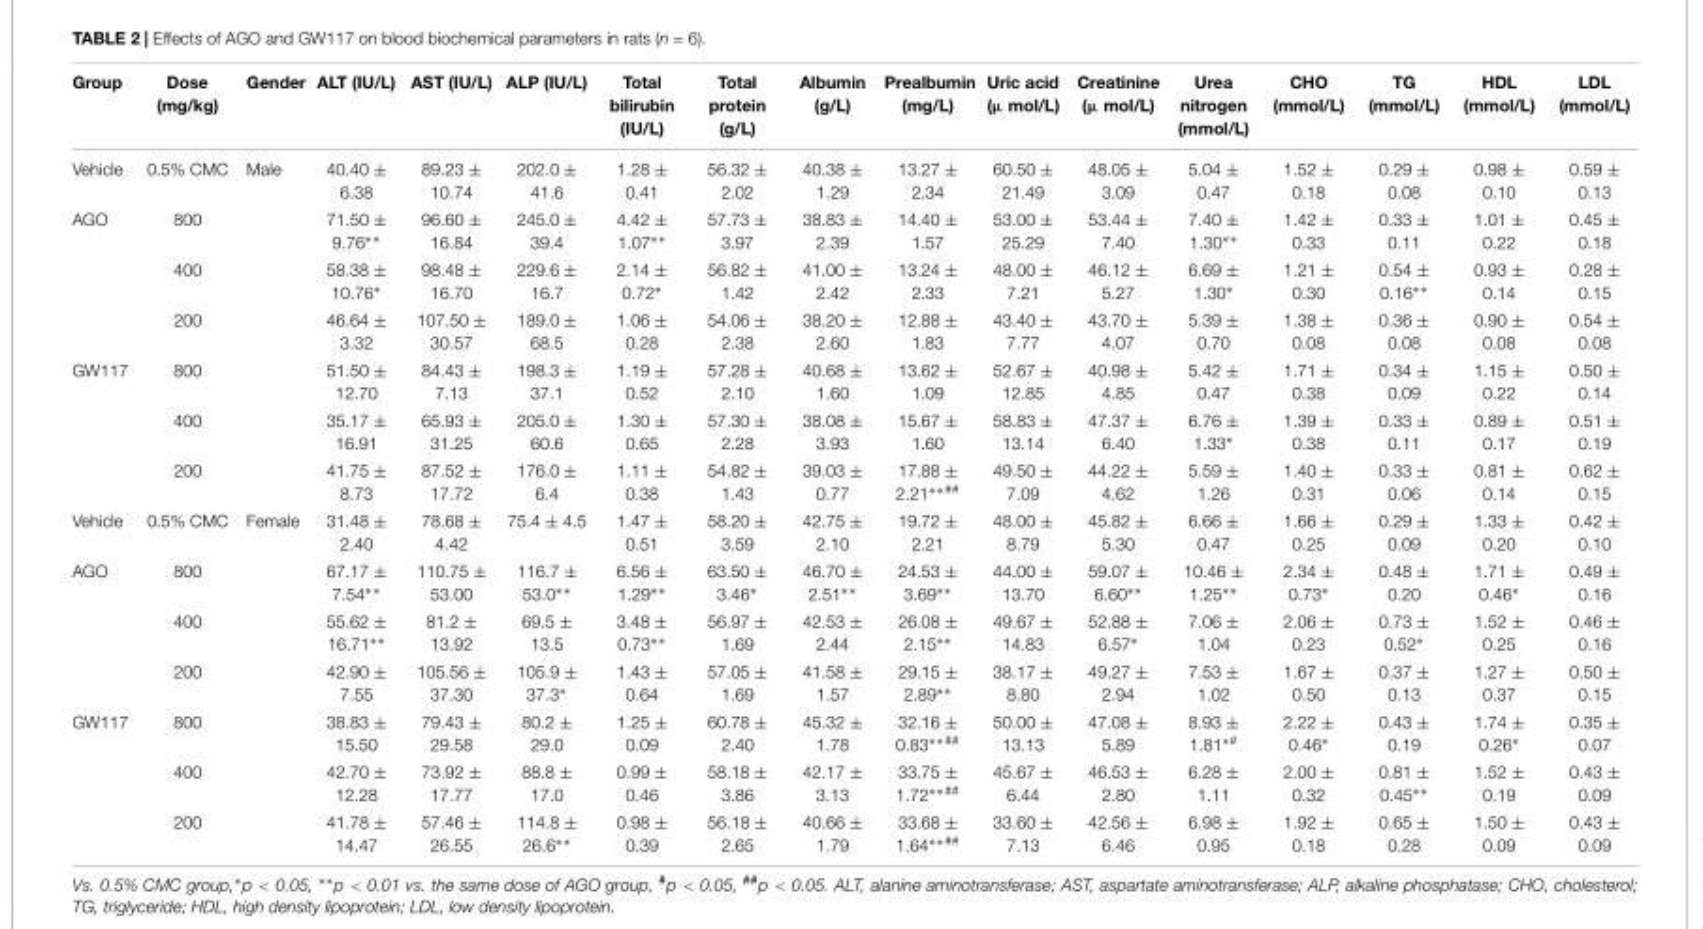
<table><thead><tr><td>Group</td><td>Dose (mg/kg)</td><td>Gender</td><td>ALT (IU/L)</td><td>AST (IU/L)</td><td>ALP (IU/L)</td><td>Total bilirubin (IU/L)</td><td>Total protein (g/L)</td><td>Albumin (g/L)</td><td>Prealbumin (mg/L)</td><td>Uric acid (µ mol/L)</td><td>Creatinine (µ mol/L)</td><td>Urea nitrogen (mmol/L)</td><td>CHO (mmol/L)</td><td>TG (mmol/L)</td><td>HDL (mmol/L)</td><td>LDL (mmol/L)</td></tr></thead><tbody><tr><td>Vehicle</td><td>0.5% CMC</td><td>Male</td><td>40.40 ± 6.38</td><td>89.23 ± 10.74</td><td>202.0 ± 41.6</td><td>1.28 ± 0.41</td><td>56.32 ± 2.02</td><td>40.38 ± 1.29</td><td>13.27 ± 2.34</td><td>60.50 ± 21.49</td><td>48.05 ± 3.09</td><td>5.04 ± 0.47</td><td>1.52 ± 0.18</td><td>0.29 ± 0.08</td><td>0.98 ± 0.10</td><td>0.59 ± 0.13</td></tr><tr><td rowspan="3">AGO</td><td>800</td><td></td><td>71.50 ± 9.76∗∗</td><td>96.60 ± 16.84</td><td>245.0 ± 39.4</td><td>4.42 ± 1.07∗∗</td><td>57.73 ± 3.97</td><td>38.83 ± 2.39</td><td>14.40 ± 1.57</td><td>53.00 ± 25.29</td><td>53.44 ± 7.40</td><td>7.40 ± 1.30∗∗</td><td>1.42 ± 0.33</td><td>0.33 ± 0.11</td><td>1.01 ± 0.22</td><td>0.45 ± 0.18</td></tr><tr><td>400</td><td></td><td>58.38 ± 10.76∗</td><td>98.48 ± 16.70</td><td>229.6 ± 16.7</td><td>2.14 ± 0.72∗</td><td>56.82 ± 1.42</td><td>41.00 ± 2.42</td><td>13.24 ± 2.33</td><td>48.00 ± 7.21</td><td>46.12 ± 5.27</td><td>6.69 ± 1.30∗</td><td>1.21 ± 0.30</td><td>0.54 ± 0.16∗∗</td><td>0.93 ± 0.14</td><td>0.28 ± 0.15</td></tr><tr><td>200</td><td></td><td>46.64 ± 3.32</td><td>107.50 ± 30.57</td><td>189.0 ± 68.5</td><td>1.06 ± 0.28</td><td>54.06 ± 2.38</td><td>38.20 ± 2.60</td><td>12.88 ± 1.83</td><td>43.40 ± 7.77</td><td>43.70 ± 4.07</td><td>5.39 ± 0.70</td><td>1.38 ± 0.08</td><td>0.36 ± 0.08</td><td>0.90 ± 0.08</td><td>0.54 ± 0.08</td></tr><tr><td rowspan="3">GW117</td><td>800</td><td></td><td>51.50 ± 12.70</td><td>84.43 ± 7.13</td><td>198.3 ± 37.1</td><td>1.19 ± 0.52</td><td>57.28 ± 2.10</td><td>40.68 ± 1.60</td><td>13.62 ± 1.09</td><td>52.67 ± 12.85</td><td>40.98 ± 4.85</td><td>5.42 ± 0.47</td><td>1.71 ± 0.38</td><td>0.34 ± 0.09</td><td>1.15 ± 0.22</td><td>0.50 ± 0.14</td></tr><tr><td>400</td><td></td><td>35.17 ± 16.91</td><td>65.93 ± 31.25</td><td>205.0 ± 60.6</td><td>1.30 ± 0.65</td><td>57.30 ± 2.28</td><td>38.08 ± 3.93</td><td>15.67 ± 1.60</td><td>58.83 ± 13.14</td><td>47.37 ± 6.40</td><td>6.76 ± 1.33∗</td><td>1.39 ± 0.38</td><td>0.33 ± 0.11</td><td>0.89 ± 0.17</td><td>0.51 ± 0.19</td></tr><tr><td>200</td><td></td><td>41.75 ± 8.73</td><td>87.52 ± 17.72</td><td>176.0 ± 6.4</td><td>1.11 ± 0.38</td><td>54.82 ± 1.43</td><td>39.03 ± 0.77</td><td>17.88 ± 2.21<sup>∗∗##</sup></td><td>49.50 ± 7.09</td><td>44.22 ± 4.62</td><td>5.59 ± 1.26</td><td>1.40 ± 0.31</td><td>0.33 ± 0.06</td><td>0.81 ± 0.14</td><td>0.62 ± 0.15</td></tr><tr><td>Vehicle</td><td>0.5% CMC</td><td>Female</td><td>31.48 ± 2.40</td><td>78.68 ± 4.42</td><td>75.4 ± 4.5</td><td>1.47 ± 0.51</td><td>58.20 ± 3.59</td><td>42.75 ± 2.10</td><td>19.72 ± 2.21</td><td>48.00 ± 8.79</td><td>45.82 ± 5.30</td><td>6.66 ± 0.47</td><td>1.66 ± 0.25</td><td>0.29 ± 0.09</td><td>1.33 ± 0.20</td><td>0.42 ± 0.10</td></tr><tr><td rowspan="3">AGO</td><td>800</td><td></td><td>67.17 ± 7.54∗∗</td><td>110.75 ± 53.00</td><td>116.7 ± 53.0∗∗</td><td>6.56 ± 1.29∗∗</td><td>63.50 ± 3.46∗</td><td>46.70 ± 2.51∗∗</td><td>24.53 ± 3.69∗∗</td><td>44.00 ± 13.70</td><td>59.07 ± 6.60∗∗</td><td>10.46 ± 1.25∗∗</td><td>2.34 ± 0.73∗</td><td>0.48 ± 0.20</td><td>1.71 ± 0.46∗</td><td>0.49 ± 0.16</td></tr><tr><td>400</td><td></td><td>55.62 ± 16.71∗∗</td><td>81.2 ± 13.92</td><td>69.5 ± 13.5</td><td>3.48 ± 0.73∗∗</td><td>56.97 ± 1.69</td><td>42.53 ± 2.44</td><td>26.08 ± 2.15∗∗</td><td>49.67 ± 14.83</td><td>52.88 ± 6.57∗</td><td>7.06 ± 1.04</td><td>2.06 ± 0.23</td><td>0.73 ± 0.52∗</td><td>1.52 ± 0.25</td><td>0.46 ± 0.16</td></tr><tr><td>200</td><td></td><td>42.90 ± 7.55</td><td>105.56 ± 37.30</td><td>105.9 ± 37.3∗</td><td>1.43 ± 0.64</td><td>57.05 ± 1.69</td><td>41.58 ± 1.57</td><td>29.15 ± 2.89∗∗</td><td>38.17 ± 8.80</td><td>49.27 ± 2.94</td><td>7.53 ± 1.02</td><td>1.67 ± 0.50</td><td>0.37 ± 0.13</td><td>1.27 ± 0.37</td><td>0.50 ± 0.15</td></tr><tr><td rowspan="3">GW117</td><td>800</td><td></td><td>38.83 ± 15.50</td><td>79.43 ± 29.58</td><td>80.2 ± 29.0</td><td>1.25 ± 0.09</td><td>60.78 ± 2.40</td><td>45.32 ± 1.78</td><td>32.16 ± 0.83<sup>∗∗##</sup></td><td>50.00 ± 13.13</td><td>47.08 ± 5.89</td><td>8.93 ± 1.81<sup>∗#</sup></td><td>2.22 ± 0.46∗</td><td>0.43 ± 0.19</td><td>1.74 ± 0.26∗</td><td>0.35 ± 0.07</td></tr><tr><td>400</td><td></td><td>42.70 ± 12.28</td><td>73.92 ± 17.77</td><td>88.8 ± 17.0</td><td>0.99 ± 0.46</td><td>58.18 ± 3.86</td><td>42.17 ± 3.13</td><td>33.75 ± 1.72<sup>∗∗##</sup></td><td>45.67 ± 6.44</td><td>46.53 ± 2.80</td><td>6.28 ± 1.11</td><td>2.00 ± 0.32</td><td>0.81 ± 0.45∗∗</td><td>1.52 ± 0.19</td><td>0.43 ± 0.09</td></tr><tr><td>200</td><td></td><td>41.78 ± 14.47</td><td>57.46 ± 26.55</td><td>114.8 ± 26.6∗∗</td><td>0.98 ± 0.39</td><td>56.18 ± 2.65</td><td>40.66 ± 1.79</td><td>33.68 ± 1.64<sup>∗∗##</sup></td><td>33.60 ± 7.13</td><td>42.56 ± 6.46</td><td>6.98 ± 0.95</td><td>1.92 ± 0.18</td><td>0.65 ± 0.28</td><td>1.50 ± 0.09</td><td>0.43 ± 0.09</td></tr></tbody></table>